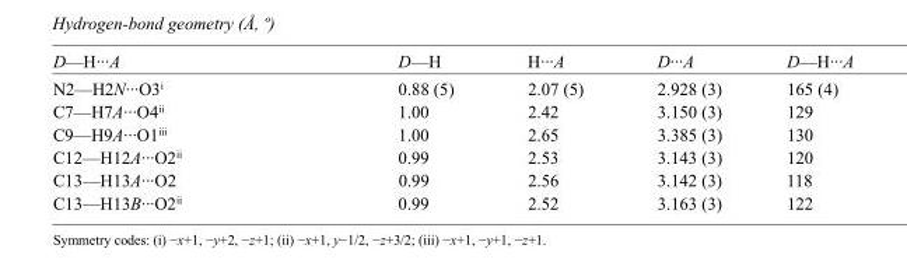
<table><tbody><tr><td>D—H···A</td><td>D—H</td><td>H···A</td><td>D···A</td><td>D—H···A</td></tr><tr><td>N2—H2N···O3<sup>i</sup></td><td>0.88 (5)</td><td>2.07 (5)</td><td>2.928 (3)</td><td>165 (4)</td></tr><tr><td>C7—H7A···O4<sup>ii</sup></td><td>1.00</td><td>2.42</td><td>3.150 (3)</td><td>129</td></tr><tr><td>C9—H9A···O1<sup>iii</sup></td><td>1.00</td><td>2.65</td><td>3.385 (3)</td><td>130</td></tr><tr><td>C12—H12A···O2<sup>ii</sup></td><td>0.99</td><td>2.53</td><td>3.143 (3)</td><td>120</td></tr><tr><td>C13—H13A···O2</td><td>0.99</td><td>2.56</td><td>3.142 (3)</td><td>118</td></tr><tr><td>C13—H13B···O2<sup>ii</sup></td><td>0.99</td><td>2.52</td><td>3.163 (3)</td><td>122</td></tr></tbody></table>